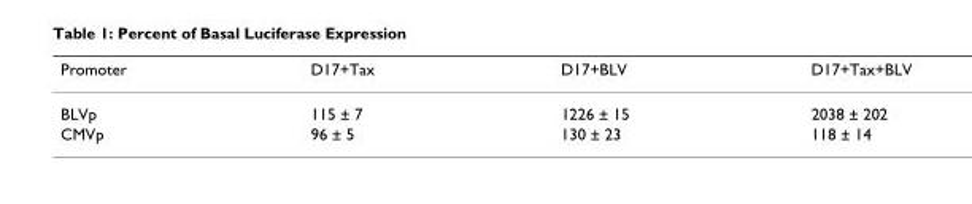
<table><thead><tr><td>Promoter</td><td>D17+Tax</td><td>D17+BLV</td><td>D17+Tax+BLV</td></tr></thead><tbody><tr><td>BLVp</td><td>115 ± 7</td><td>1226 ± 15</td><td>2038 ± 202</td></tr><tr><td>CMVp</td><td>96 ± 5</td><td>130 ± 23</td><td>118 ± 14</td></tr></tbody></table>